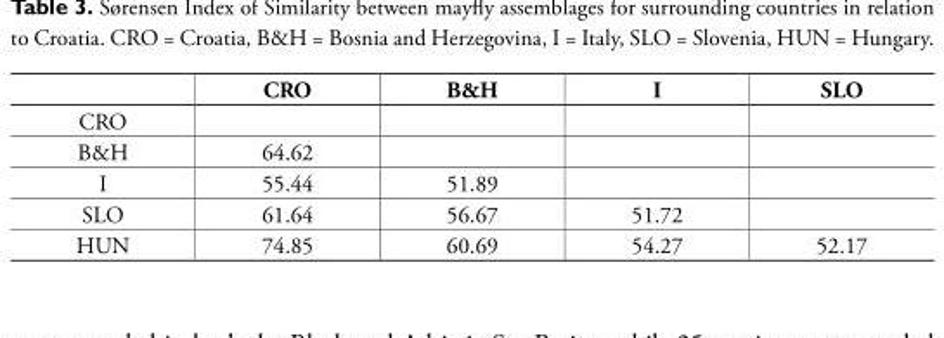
<table><thead><tr><td></td><td>CRO</td><td>B&amp;H</td><td>I</td><td>SLO</td></tr></thead><tbody><tr><td colspan="5">CRO</td></tr><tr><td>B&amp;H</td><td>64.62</td><td></td><td></td><td></td></tr><tr><td>I</td><td>55.44</td><td>51.89</td><td></td><td></td></tr><tr><td>SLO</td><td>61.64</td><td>56.67</td><td>51.72</td><td></td></tr><tr><td>HUN</td><td>74.85</td><td>60.69</td><td>54.27</td><td>52.17</td></tr></tbody></table>